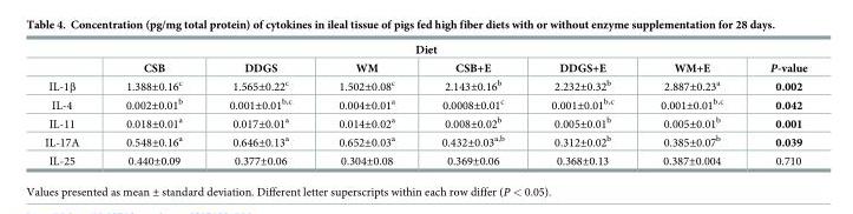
<table><thead><tr><td colspan="8">Diet</td></tr><tr><td></td><td>CSB</td><td>DDGS</td><td>WM</td><td>CSB+E</td><td>DDGS+E</td><td>WM+E</td><td>P-value</td></tr></thead><tbody><tr><td>IL-1β</td><td>1.388±0.16<sup>c</sup></td><td>1.565±0.22<sup>c</sup></td><td>1.502±0.08<sup>c</sup></td><td>2.143±0.16<sup>b</sup></td><td>2.232±0.32<sup>b</sup></td><td>2.887±0.23<sup>a</sup></td><td>0.002</td></tr><tr><td>IL-4</td><td>0.002±0.01<sup>b</sup></td><td>0.001±0.01<sup>b,c</sup></td><td>0.004±0.01<sup>a</sup></td><td>0.0008±0.01<sup>c</sup></td><td>0.001±0.01<sup>b,c</sup></td><td>0.001±0.01<sup>b,c</sup></td><td>0.042</td></tr><tr><td>IL-11</td><td>0.018±0.01<sup>a</sup></td><td>0.017±0.01<sup>a</sup></td><td>0.014±0.02<sup>a</sup></td><td>0.008±0.02<sup>b</sup></td><td>0.005±0.01<sup>b</sup></td><td>0.005±0.01<sup>b</sup></td><td>0.001</td></tr><tr><td>IL-17A</td><td>0.548±0.16<sup>a</sup></td><td>0.646±0.13<sup>a</sup></td><td>0.652±0.03<sup>a</sup></td><td>0.432±0.03<sup>a,b</sup></td><td>0.312±0.02<sup>b</sup></td><td>0.385±0.07<sup>b</sup></td><td>0.039</td></tr><tr><td>IL-25</td><td>0.440±0.09</td><td>0.377±0.06</td><td>0.304±0.08</td><td>0.369±0.06</td><td>0.368±0.13</td><td>0.387±0.004</td><td>0.710</td></tr></tbody></table>